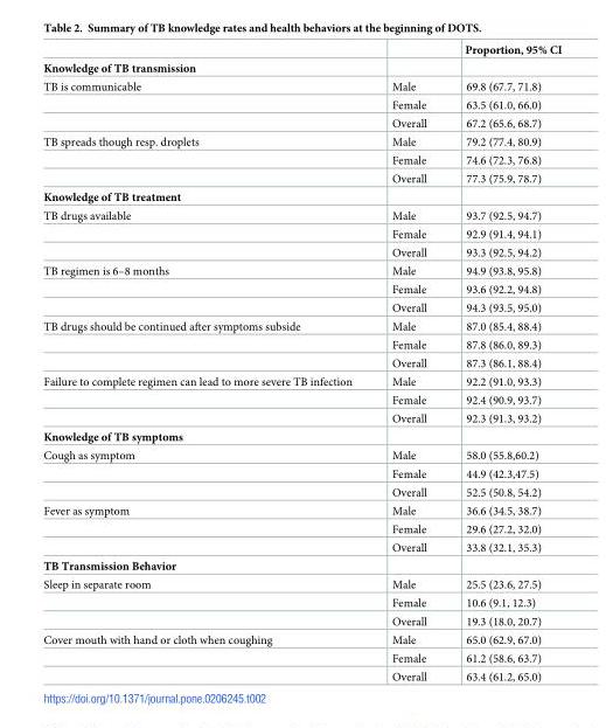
<table><thead><tr><td></td><td></td><td>Proportion, 95% CI</td></tr></thead><tbody><tr><td colspan="3">Knowledge of TB transmission</td></tr><tr><td rowspan="3">TB is communicable</td><td>Male</td><td>69.8 (67.7, 71.8)</td></tr><tr><td>Female</td><td>63.5 (61.0, 66.0)</td></tr><tr><td>Overall</td><td>67.2 (65.6, 68.7)</td></tr><tr><td rowspan="3">TB spreads though resp. droplets</td><td>Male</td><td>79.2 (77.4, 80.9)</td></tr><tr><td>Female</td><td>74.6 (72.3, 76.8)</td></tr><tr><td>Overall</td><td>77.3 (75.9, 78.7)</td></tr><tr><td colspan="3">Knowledge of TB treatment</td></tr><tr><td rowspan="3">TB drugs available</td><td>Male</td><td>93.7 (92.5, 94.7)</td></tr><tr><td>Female</td><td>92.9 (91.4, 94.1)</td></tr><tr><td>Overall</td><td>93.3 (92.5, 94.2)</td></tr><tr><td rowspan="3">TB regimen is 6–8 months</td><td>Male</td><td>94.9 (93.8, 95.8)</td></tr><tr><td>Female</td><td>93.6 (92.2, 94.8)</td></tr><tr><td>Overall</td><td>94.3 (93.5, 95.0)</td></tr><tr><td rowspan="3">TB drugs should be continued after symptoms subside</td><td>Male</td><td>87.0 (85.4, 88.4)</td></tr><tr><td>Female</td><td>87.8 (86.0, 89.3)</td></tr><tr><td>Overall</td><td>87.3 (86.1, 88.4)</td></tr><tr><td rowspan="3">Failure to complete regimen can lead to more severe TB infection</td><td>Male</td><td>92.2 (91.0, 93.3)</td></tr><tr><td>Female</td><td>92.4 (90.9, 93.7)</td></tr><tr><td>Overall</td><td>92.3 (91.3, 93.2)</td></tr><tr><td colspan="3">Knowledge of TB symptoms</td></tr><tr><td rowspan="3">Cough as symptom</td><td>Male</td><td>58.0 (55.8,60.2)</td></tr><tr><td>Female</td><td>44.9 (42.3,47.5)</td></tr><tr><td>Overall</td><td>52.5 (50.8, 54.2)</td></tr><tr><td rowspan="3">Fever as symptom</td><td>Male</td><td>36.6 (34.5, 38.7)</td></tr><tr><td>Female</td><td>29.6 (27.2, 32.0)</td></tr><tr><td>Overall</td><td>33.8 (32.1, 35.3)</td></tr><tr><td colspan="3">TB Transmission Behavior</td></tr><tr><td rowspan="3">Sleep in separate room</td><td>Male</td><td>25.5 (23.6, 27.5)</td></tr><tr><td>Female</td><td>10.6 (9.1, 12.3)</td></tr><tr><td>Overall</td><td>19.3 (18.0, 20.7)</td></tr><tr><td rowspan="3">Cover mouth with hand or cloth when coughing</td><td>Male</td><td>65.0 (62.9, 67.0)</td></tr><tr><td>Female</td><td>61.2 (58.6, 63.7)</td></tr><tr><td>Overall</td><td>63.4 (61.2, 65.0)</td></tr></tbody></table>